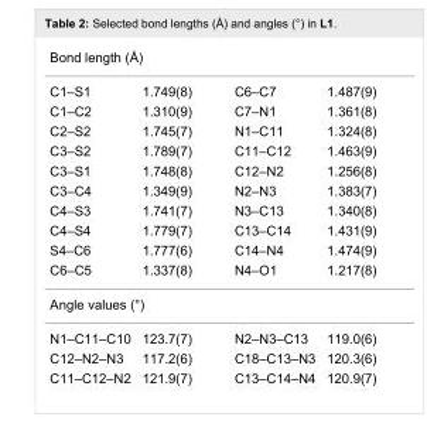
<table><tbody><tr><td colspan="4">Bond length (Å)</td></tr><tr><td>C1–S1</td><td>1.749(8)</td><td>C6–C7</td><td>1.487(9)</td></tr><tr><td>C1–C2</td><td>1.310(9)</td><td>C7–N1</td><td>1.361(8)</td></tr><tr><td>C2–S2</td><td>1.745(7)</td><td>N1–C11</td><td>1.324(8)</td></tr><tr><td>C3–S2</td><td>1.789(7)</td><td>C11–C12</td><td>1.463(9)</td></tr><tr><td>C3–S1</td><td>1.748(8)</td><td>C12–N2</td><td>1.256(8)</td></tr><tr><td>C3–C4</td><td>1.349(9)</td><td>N2–N3</td><td>1.383(7)</td></tr><tr><td>C4–S3</td><td>1.741(7)</td><td>N3–C13</td><td>1.340(8)</td></tr><tr><td>C4–S4</td><td>1.779(7)</td><td>C13–C14</td><td>1.431(9)</td></tr><tr><td>S4–C6</td><td>1.777(6)</td><td>C14–N4</td><td>1.474(9)</td></tr><tr><td>C6–C5</td><td>1.337(8)</td><td>N4–O1</td><td>1.217(8)</td></tr><tr><td colspan="4">Angle values (°)</td></tr><tr><td>N1–C11–C10</td><td>123.7(7)</td><td>N2–N3–C13</td><td>119.0(6)</td></tr><tr><td>C12–N2–N3</td><td>117.2(6)</td><td>C18–C13–N3</td><td>120.3(6)</td></tr><tr><td>C11–C12–N2</td><td>121.9(7)</td><td>C13–C14–N4</td><td>120.9(7)</td></tr></tbody></table>